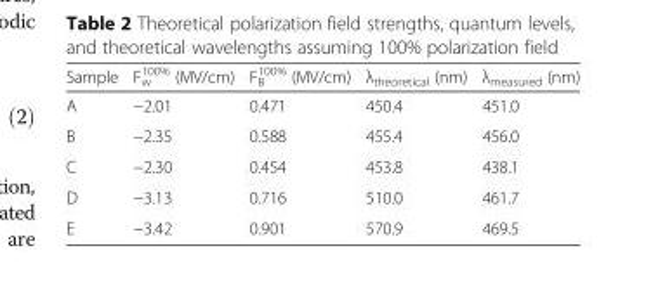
<table><thead><tr><td>Sample</td><td>F<sub>w</sub> <sup>100%</sup> (MV/cm)</td><td>F<sub>B</sub> <sup>100%</sup> (MV/cm)</td><td>λ<sub>theoretical</sub> (nm)</td><td>λ<sub>measured</sub> (nm)</td></tr></thead><tbody><tr><td>A</td><td>−2.01</td><td>0.471</td><td>450.4</td><td>451.0</td></tr><tr><td>B</td><td>−2.35</td><td>0.588</td><td>455.4</td><td>456.0</td></tr><tr><td>C</td><td>−2.30</td><td>0.454</td><td>453.8</td><td>438.1</td></tr><tr><td>D</td><td>−3.13</td><td>0.716</td><td>510.0</td><td>461.7</td></tr><tr><td>E</td><td>−3.42</td><td>0.901</td><td>570.9</td><td>469.5</td></tr></tbody></table>